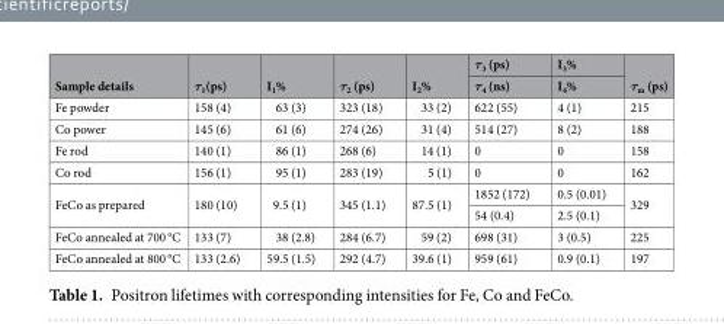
<table><thead><tr><td rowspan="2">Sample details</td><td rowspan="2">τ<sub>1</sub>(ps)</td><td rowspan="2">I<sub>1</sub>%</td><td rowspan="2">τ<sub>2</sub> (ps)</td><td rowspan="2">I<sub>2</sub>%</td><td rowspan="2">τ<sub>3</sub> (ps) τ<sub>4</sub> (ns)</td><td rowspan="2">I<sub>3</sub>% I<sub>4</sub>%</td><td rowspan="2">τ<sub>m</sub> (ps)</td></tr><tr></tr></thead><tbody><tr><td>Fe powder</td><td>158 (4)</td><td>63 (3)</td><td>323 (18)</td><td>33 (2)</td><td>622 (55)</td><td>4 (1)</td><td>215</td></tr><tr><td>Co power</td><td>145 (6)</td><td>61 (6)</td><td>274 (26)</td><td>31 (4)</td><td>514 (27)</td><td>8 (2)</td><td>188</td></tr><tr><td>Fe rod</td><td>140 (1)</td><td>86 (1)</td><td>268 (6)</td><td>14 (1)</td><td>0</td><td>0</td><td>158</td></tr><tr><td>Co rod</td><td>156 (1)</td><td>95 (1)</td><td>283 (19)</td><td>5 (1)</td><td>0</td><td>0</td><td>162</td></tr><tr><td rowspan="2">FeCo as prepared</td><td rowspan="2">180 (10)</td><td rowspan="2">9.5 (1)</td><td rowspan="2">345 (1.1)</td><td rowspan="2">87.5 (1)</td><td>1852 (172)</td><td>0.5 (0.01)</td><td rowspan="2">329</td></tr><tr><td>54 (0.4)</td><td>2.5 (0.1)</td></tr><tr><td>FeCo annealed at 700 °C</td><td>133 (7)</td><td>38 (2.8)</td><td>284 (6.7)</td><td>59 (2)</td><td>698 (31)</td><td>3 (0.5)</td><td>225</td></tr><tr><td>FeCo annealed at 800 °C</td><td>133 (2.6)</td><td>59.5 (1.5)</td><td>292 (4.7)</td><td>39.6 (1)</td><td>959 (61)</td><td>0.9 (0.1)</td><td>197</td></tr></tbody></table>